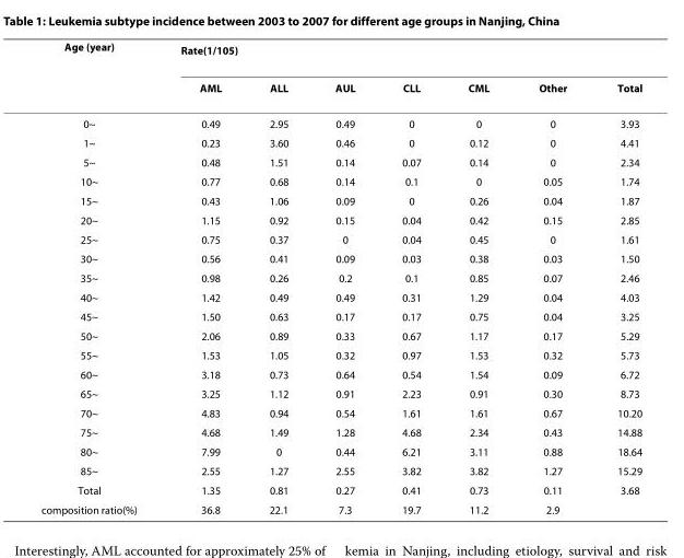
<table><thead><tr><td rowspan="2">Age (year)</td><td colspan="7">Rate(1/10<sup>5</sup>)</td></tr><tr><td>AML</td><td>ALL</td><td>AUL</td><td>CLL</td><td>CML</td><td>Other</td><td>Total</td></tr></thead><tbody><tr><td>0~</td><td>0.49</td><td>2.95</td><td>0.49</td><td>0</td><td>0</td><td>0</td><td>3.93</td></tr><tr><td>1~</td><td>0.23</td><td>3.60</td><td>0.46</td><td>0</td><td>0.12</td><td>0</td><td>4.41</td></tr><tr><td>5~</td><td>0.48</td><td>1.51</td><td>0.14</td><td>0.07</td><td>0.14</td><td>0</td><td>2.34</td></tr><tr><td>10~</td><td>0.77</td><td>0.68</td><td>0.14</td><td>0.1</td><td>0</td><td>0.05</td><td>1.74</td></tr><tr><td>15~</td><td>0.43</td><td>1.06</td><td>0.09</td><td>0</td><td>0.26</td><td>0.04</td><td>1.87</td></tr><tr><td>20~</td><td>1.15</td><td>0.92</td><td>0.15</td><td>0.04</td><td>0.42</td><td>0.15</td><td>2.85</td></tr><tr><td>25~</td><td>0.75</td><td>0.37</td><td>0</td><td>0.04</td><td>0.45</td><td>0</td><td>1.61</td></tr><tr><td>30~</td><td>0.56</td><td>0.41</td><td>0.09</td><td>0.03</td><td>0.38</td><td>0.03</td><td>1.50</td></tr><tr><td>35~</td><td>0.98</td><td>0.26</td><td>0.2</td><td>0.1</td><td>0.85</td><td>0.07</td><td>2.46</td></tr><tr><td>40~</td><td>1.42</td><td>0.49</td><td>0.49</td><td>0.31</td><td>1.29</td><td>0.04</td><td>4.03</td></tr><tr><td>45~</td><td>1.50</td><td>0.63</td><td>0.17</td><td>0.17</td><td>0.75</td><td>0.04</td><td>3.25</td></tr><tr><td>50~</td><td>2.06</td><td>0.89</td><td>0.33</td><td>0.67</td><td>1.17</td><td>0.17</td><td>5.29</td></tr><tr><td>55~</td><td>1.53</td><td>1.05</td><td>0.32</td><td>0.97</td><td>1.53</td><td>0.32</td><td>5.73</td></tr><tr><td>60~</td><td>3.18</td><td>0.73</td><td>0.64</td><td>0.54</td><td>1.54</td><td>0.09</td><td>6.72</td></tr><tr><td>65~</td><td>3.25</td><td>1.12</td><td>0.91</td><td>2.23</td><td>0.91</td><td>0.30</td><td>8.73</td></tr><tr><td>70~</td><td>4.83</td><td>0.94</td><td>0.54</td><td>1.61</td><td>1.61</td><td>0.67</td><td>10.20</td></tr><tr><td>75~</td><td>4.68</td><td>1.49</td><td>1.28</td><td>4.68</td><td>2.34</td><td>0.43</td><td>14.88</td></tr><tr><td>80~</td><td>7.99</td><td>0</td><td>0.44</td><td>6.21</td><td>3.11</td><td>0.88</td><td>18.64</td></tr><tr><td>85~</td><td>2.55</td><td>1.27</td><td>2.55</td><td>3.82</td><td>3.82</td><td>1.27</td><td>15.29</td></tr><tr><td>Total</td><td>1.35</td><td>0.81</td><td>0.27</td><td>0.41</td><td>0.73</td><td>0.11</td><td>3.68</td></tr><tr><td>composition ratio(%)</td><td>36.8</td><td>22.1</td><td>7.3</td><td>19.7</td><td>11.2</td><td>2.9</td><td></td></tr></tbody></table>